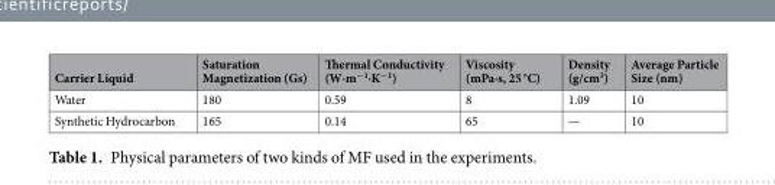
<table><thead><tr><td>Carrier Liquid</td><td>Saturation Magnetization (Gs)</td><td>Thermal Conductivity (W∙m<sup>−1</sup>∙K<sup>−1</sup>)</td><td>Viscosity (mPa∙s, 25 °C)</td><td>Density (g/cm<sup>3</sup>)</td><td>Average Particle Size (nm)</td></tr></thead><tbody><tr><td>Water</td><td>180</td><td>0.59</td><td>8</td><td>1.09</td><td>10</td></tr><tr><td>Synthetic Hydrocarbon</td><td>165</td><td>0.14</td><td>65</td><td>—</td><td>10</td></tr></tbody></table>